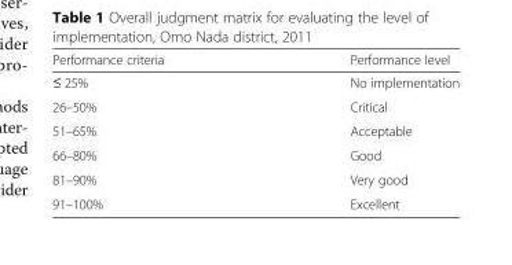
<table><thead><tr><td>Performance criteria</td><td>Performance level</td></tr></thead><tbody><tr><td>≤ 25%</td><td>No implementation</td></tr><tr><td>26–50%</td><td>Critical</td></tr><tr><td>51–65%</td><td>Acceptable</td></tr><tr><td>66–80%</td><td>Good</td></tr><tr><td>81–90%</td><td>Very good</td></tr><tr><td>91–100%</td><td>Excellent</td></tr></tbody></table>